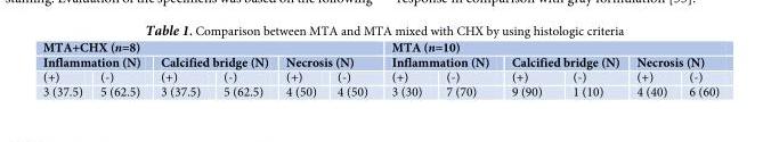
<table><thead><tr><td colspan="6">MTA+CHX (n=8)</td><td colspan="6">MTA (n=10)</td></tr><tr><td colspan="2">Inflammation (N)</td><td colspan="2">Calcified bridge (N)</td><td colspan="2">Necrosis (N)</td><td colspan="2">Inflammation (N)</td><td colspan="2">Calcified bridge (N)</td><td colspan="2">Necrosis (N)</td></tr><tr><td>(+)</td><td>(-)</td><td>(+)</td><td>(-)</td><td>(+)</td><td>(-)</td><td>(+)</td><td>(-)</td><td>(+)</td><td>(-)</td><td>(+)</td><td>(-)</td></tr></thead><tbody><tr><td>3 (37.5)</td><td>5 (62.5)</td><td>3 (37.5)</td><td>5 (62.5)</td><td>4 (50)</td><td>4 (50)</td><td>3 (30)</td><td>7 (70)</td><td>9 (90)</td><td>1 (10)</td><td>4 (40)</td><td>6 (60)</td></tr></tbody></table>